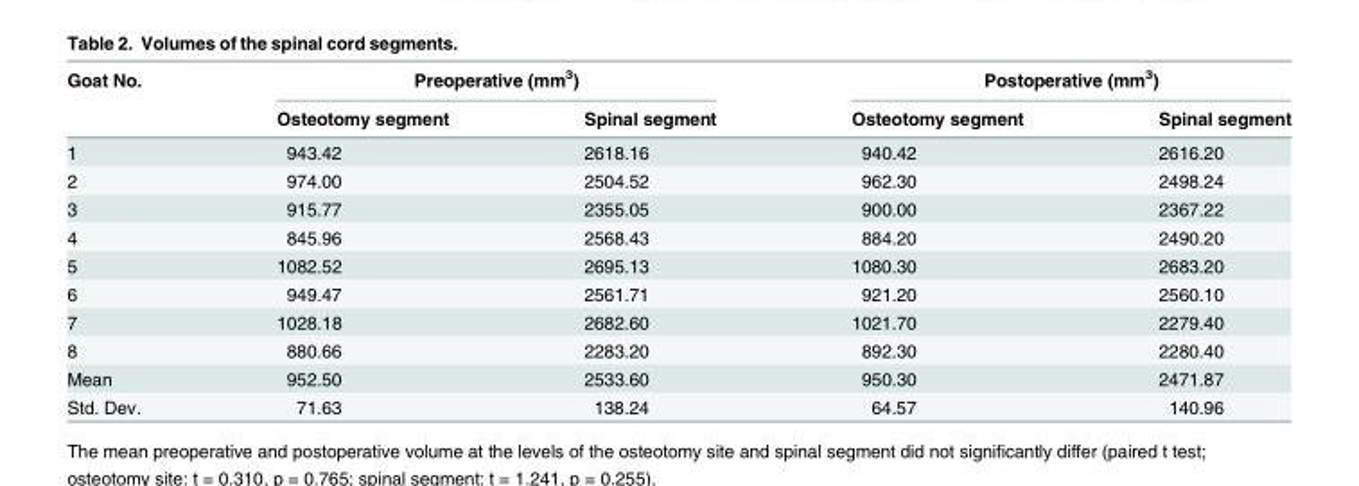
<table><thead><tr><td rowspan="2">Goat No.</td><td colspan="2">Preoperative (mm<sup>3</sup>)</td><td colspan="2">Postoperative (mm<sup>3</sup>)</td></tr><tr><td>Osteotomy segment</td><td>Spinal segment</td><td>Osteotomy segment</td><td>Spinal segment</td></tr></thead><tbody><tr><td>1</td><td>943.42</td><td>2618.16</td><td>940.42</td><td>2616.20</td></tr><tr><td>2</td><td>974.00</td><td>2504.52</td><td>962.30</td><td>2498.24</td></tr><tr><td>3</td><td>915.77</td><td>2355.05</td><td>900.00</td><td>2367.22</td></tr><tr><td>4</td><td>845.96</td><td>2568.43</td><td>884.20</td><td>2490.20</td></tr><tr><td>5</td><td>1082.52</td><td>2695.13</td><td>1080.30</td><td>2683.20</td></tr><tr><td>6</td><td>949.47</td><td>2561.71</td><td>921.20</td><td>2560.10</td></tr><tr><td>7</td><td>1028.18</td><td>2682.60</td><td>1021.70</td><td>2279.40</td></tr><tr><td>8</td><td>880.66</td><td>2283.20</td><td>892.30</td><td>2280.40</td></tr><tr><td>Mean</td><td>952.50</td><td>2533.60</td><td>950.30</td><td>2471.87</td></tr><tr><td>Std. Dev.</td><td>71.63</td><td>138.24</td><td>64.57</td><td>140.96</td></tr></tbody></table>